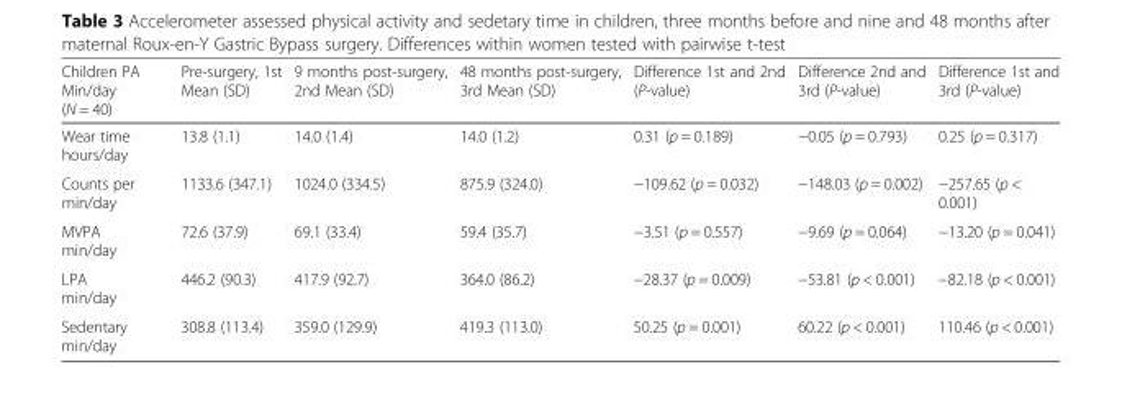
<table><thead><tr><td>Children PA Min/day (N = 40)</td><td>Pre-surgery, 1st Mean (SD)</td><td>9 months post-surgery, 2nd Mean (SD)</td><td>48 months post-surgery, 3rd Mean (SD)</td><td>Difference 1st and 2nd (P-value)</td><td>Difference 2nd and 3rd (P-value)</td><td>Difference 1st and 3rd (P-value)</td></tr></thead><tbody><tr><td>Wear time hours/day</td><td>13.8 (1.1)</td><td>14.0 (1.4)</td><td>14.0 (1.2)</td><td>0.31 (p = 0.189)</td><td>−0.05 (p = 0.793)</td><td>0.25 (p = 0.317)</td></tr><tr><td>Counts per min/day</td><td>1133.6 (347.1)</td><td>1024.0 (334.5)</td><td>875.9 (324.0)</td><td>−109.62 (p = 0.032)</td><td>−148.03 (p = 0.002)</td><td>−257.65 (p &lt; 0.001)</td></tr><tr><td>MVPA min/day</td><td>72.6 (37.9)</td><td>69.1 (33.4)</td><td>59.4 (35.7)</td><td>−3.51 (p = 0.557)</td><td>−9.69 (p = 0.064)</td><td>−13.20 (p = 0.041)</td></tr><tr><td>LPA min/day</td><td>446.2 (90.3)</td><td>417.9 (92.7)</td><td>364.0 (86.2)</td><td>−28.37 (p = 0.009)</td><td>−53.81 (p &lt; 0.001)</td><td>−82.18 (p &lt; 0.001)</td></tr><tr><td>Sedentary min/day</td><td>308.8 (113.4)</td><td>359.0 (129.9)</td><td>419.3 (113.0)</td><td>50.25 (p = 0.001)</td><td>60.22 (p &lt; 0.001)</td><td>110.46 (p &lt; 0.001)</td></tr></tbody></table>